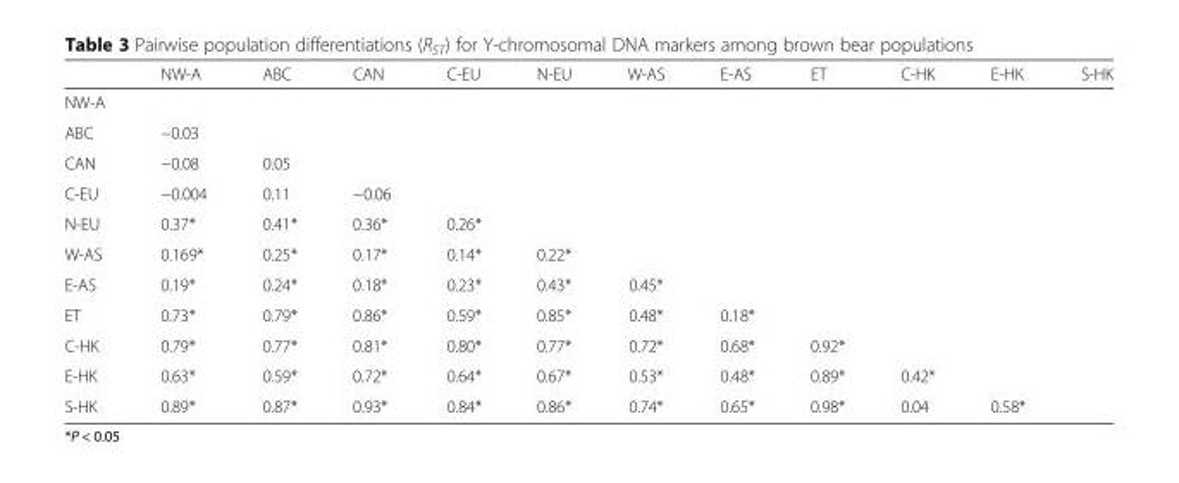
<table><thead><tr><td></td><td>NW-A</td><td>ABC</td><td>CAN</td><td>C-EU</td><td>N-EU</td><td>W-AS</td><td>E-AS</td><td>ET</td><td>C-HK</td><td>E-HK</td><td>S-HK</td></tr></thead><tbody><tr><td colspan="12">NW-A</td></tr><tr><td>ABC</td><td>−0.03</td><td></td><td></td><td></td><td></td><td></td><td></td><td></td><td></td><td></td><td></td></tr><tr><td>CAN</td><td>−0.08</td><td>0.05</td><td></td><td></td><td></td><td></td><td></td><td></td><td></td><td></td><td></td></tr><tr><td>C-EU</td><td>−0.004</td><td>0.11</td><td>−0.06</td><td></td><td></td><td></td><td></td><td></td><td></td><td></td><td></td></tr><tr><td>N-EU</td><td>0.37*</td><td>0.41*</td><td>0.36*</td><td>0.26*</td><td></td><td></td><td></td><td></td><td></td><td></td><td></td></tr><tr><td>W-AS</td><td>0.169*</td><td>0.25*</td><td>0.17*</td><td>0.14*</td><td>0.22*</td><td></td><td></td><td></td><td></td><td></td><td></td></tr><tr><td>E-AS</td><td>0.19*</td><td>0.24*</td><td>0.18*</td><td>0.23*</td><td>0.43*</td><td>0.45*</td><td></td><td></td><td></td><td></td><td></td></tr><tr><td>ET</td><td>0.73*</td><td>0.79*</td><td>0.86*</td><td>0.59*</td><td>0.85*</td><td>0.48*</td><td>0.18*</td><td></td><td></td><td></td><td></td></tr><tr><td>C-HK</td><td>0.79*</td><td>0.77*</td><td>0.81*</td><td>0.80*</td><td>0.77*</td><td>0.72*</td><td>0.68*</td><td>0.92*</td><td></td><td></td><td></td></tr><tr><td>E-HK</td><td>0.63*</td><td>0.59*</td><td>0.72*</td><td>0.64*</td><td>0.67*</td><td>0.53*</td><td>0.48*</td><td>0.89*</td><td>0.42*</td><td></td><td></td></tr><tr><td>S-HK</td><td>0.89*</td><td>0.87*</td><td>0.93*</td><td>0.84*</td><td>0.86*</td><td>0.74*</td><td>0.65*</td><td>0.98*</td><td>0.04</td><td>0.58*</td><td></td></tr></tbody></table>